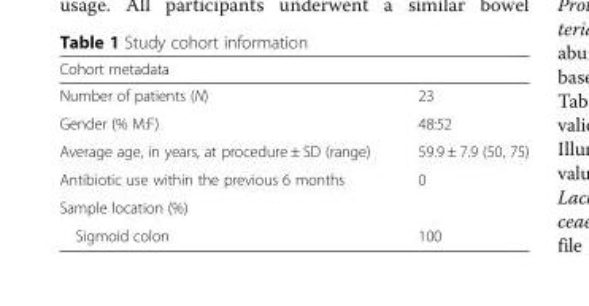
<table><thead><tr><td colspan="2">Cohort metadata</td></tr><tr><td>Number of patients (N)</td><td>23</td></tr></thead><tbody><tr><td>Gender (% M:F)</td><td>48:52</td></tr><tr><td>Average age, in years, at procedure ± SD (range)</td><td>59.9 ± 7.9 (50, 75)</td></tr><tr><td>Antibiotic use within the previous 6 months</td><td>0</td></tr><tr><td colspan="2">Sample location (%)</td></tr><tr><td>Sigmoid colon</td><td>100</td></tr></tbody></table>